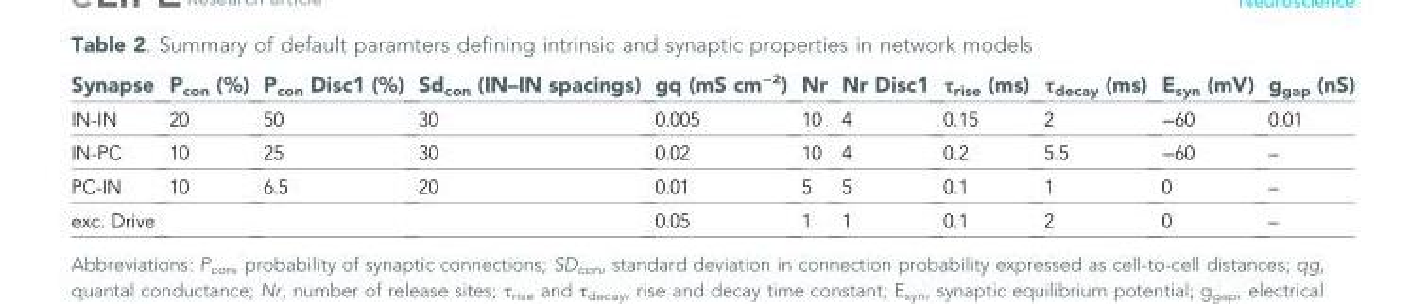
<table><thead><tr><td>Synapse</td><td>P<sub>con</sub> (%)</td><td>P<sub>con</sub> Disc1 (%)</td><td>Sd<sub>con</sub> (IN–IN spacings)</td><td>gq (mS cm<sup>−2</sup>)</td><td>Nr</td><td>Nr Disc1</td><td>τ<sub>rise</sub> (ms)</td><td>τ<sub>decay</sub> (ms)</td><td>E<sub>syn</sub> (mV)</td><td>g<sub>gap</sub> (nS)</td></tr></thead><tbody><tr><td>IN-IN</td><td>20</td><td>50</td><td>30</td><td>0.005</td><td>10</td><td>4</td><td>0.15</td><td>2</td><td>−60</td><td>0.01</td></tr><tr><td>IN-PC</td><td>10</td><td>25</td><td>30</td><td>0.02</td><td>10</td><td>4</td><td>0.2</td><td>5.5</td><td>−60</td><td>–</td></tr><tr><td>PC-IN</td><td>10</td><td>6.5</td><td>20</td><td>0.01</td><td>5</td><td>5</td><td>0.1</td><td>1</td><td>0</td><td>–</td></tr><tr><td>exc. Drive</td><td></td><td></td><td></td><td>0.05</td><td>1</td><td>1</td><td>0.1</td><td>2</td><td>0</td><td>–</td></tr></tbody></table>